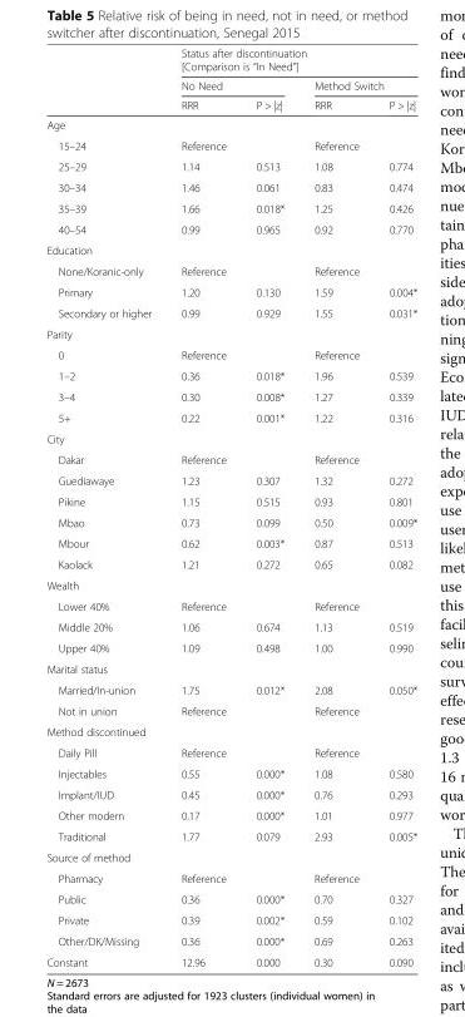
<table><thead><tr><td rowspan="3"></td><td colspan="4">Status after discontinuation [Comparison is “In Need”]</td></tr><tr><td colspan="2">No Need</td><td colspan="2">Method Switch</td></tr><tr><td>RRR</td><td>P &gt; |z|</td><td>RRR</td><td>P &gt; |z|</td></tr></thead><tbody><tr><td colspan="5">Age</td></tr><tr><td>15–24</td><td>Reference</td><td></td><td>Reference</td><td></td></tr><tr><td>25–29</td><td>1.14</td><td>0.513</td><td>1.08</td><td>0.774</td></tr><tr><td>30–34</td><td>1.46</td><td>0.061</td><td>0.83</td><td>0.474</td></tr><tr><td>35–39</td><td>1.66</td><td>0.018*</td><td>1.25</td><td>0.426</td></tr><tr><td>40–54</td><td>0.99</td><td>0.965</td><td>0.92</td><td>0.770</td></tr><tr><td colspan="5">Education</td></tr><tr><td>None/Koranic-only</td><td>Reference</td><td></td><td>Reference</td><td></td></tr><tr><td>Primary</td><td>1.20</td><td>0.130</td><td>1.59</td><td>0.004*</td></tr><tr><td>Secondary or higher</td><td>0.99</td><td>0.929</td><td>1.55</td><td>0.031*</td></tr><tr><td colspan="5">Parity</td></tr><tr><td>0</td><td>Reference</td><td></td><td>Reference</td><td></td></tr><tr><td>1–2</td><td>0.36</td><td>0.018*</td><td>1.96</td><td>0.539</td></tr><tr><td>3–4</td><td>0.30</td><td>0.008*</td><td>1.27</td><td>0.339</td></tr><tr><td>5+</td><td>0.22</td><td>0.001*</td><td>1.22</td><td>0.316</td></tr><tr><td colspan="5">City</td></tr><tr><td>Dakar</td><td>Reference</td><td></td><td>Reference</td><td></td></tr><tr><td>Guediawaye</td><td>1.23</td><td>0.307</td><td>1.32</td><td>0.272</td></tr><tr><td>Pikine</td><td>1.15</td><td>0.515</td><td>0.93</td><td>0.801</td></tr><tr><td>Mbao</td><td>0.73</td><td>0.099</td><td>0.50</td><td>0.009*</td></tr><tr><td>Mbour</td><td>0.62</td><td>0.003*</td><td>0.87</td><td>0.513</td></tr><tr><td>Kaolack</td><td>1.21</td><td>0.272</td><td>0.65</td><td>0.082</td></tr><tr><td colspan="5">Wealth</td></tr><tr><td>Lower 40%</td><td>Reference</td><td></td><td>Reference</td><td></td></tr><tr><td>Middle 20%</td><td>1.06</td><td>0.674</td><td>1.13</td><td>0.519</td></tr><tr><td>Upper 40%</td><td>1.09</td><td>0.498</td><td>1.00</td><td>0.990</td></tr><tr><td colspan="5">Marital status</td></tr><tr><td>Married/In-union</td><td>1.75</td><td>0.012*</td><td>2.08</td><td>0.050*</td></tr><tr><td>Not in union</td><td>Reference</td><td></td><td>Reference</td><td></td></tr><tr><td colspan="5">Method discontinued</td></tr><tr><td>Daily Pill</td><td>Reference</td><td></td><td>Reference</td><td></td></tr><tr><td>Injectables</td><td>0.55</td><td>0.000*</td><td>1.08</td><td>0.580</td></tr><tr><td>Implant/IUD</td><td>0.45</td><td>0.000*</td><td>0.76</td><td>0.293</td></tr><tr><td>Other modern</td><td>0.17</td><td>0.000*</td><td>1.01</td><td>0.977</td></tr><tr><td>Traditional</td><td>1.77</td><td>0.079</td><td>2.93</td><td>0.005*</td></tr><tr><td colspan="5">Source of method</td></tr><tr><td>Pharmacy</td><td>Reference</td><td></td><td>Reference</td><td></td></tr><tr><td>Public</td><td>0.36</td><td>0.000*</td><td>0.70</td><td>0.327</td></tr><tr><td>Private</td><td>0.39</td><td>0.002*</td><td>0.59</td><td>0.102</td></tr><tr><td>Other/DK/Missing</td><td>0.36</td><td>0.000*</td><td>0.69</td><td>0.263</td></tr><tr><td>Constant</td><td>12.96</td><td>0.000</td><td>0.30</td><td>0.090</td></tr></tbody></table>